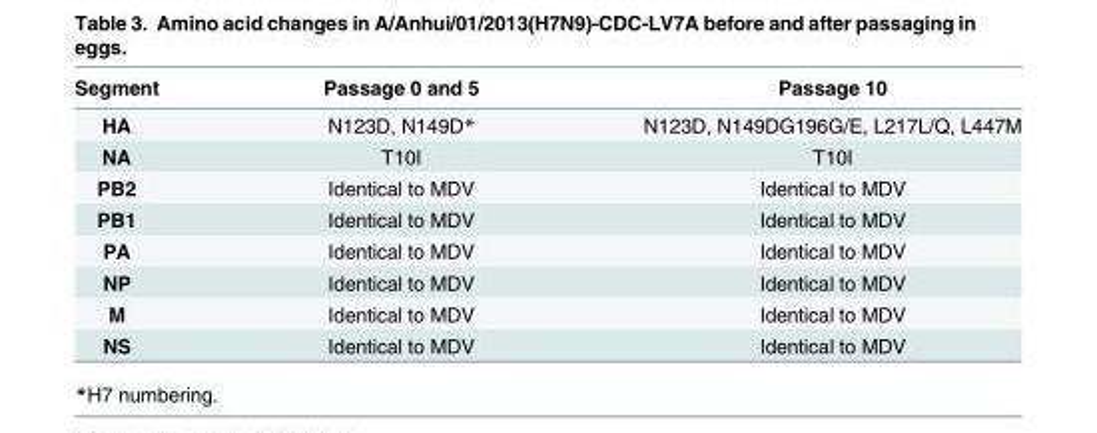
<table><thead><tr><td>Segment</td><td>Passage 0 and 5</td><td>Passage 10</td></tr></thead><tbody><tr><td>HA</td><td>N123D, N149D*</td><td>N123D, N149DG196G/E, L217L/Q, L447M</td></tr><tr><td>NA</td><td>T10I</td><td>T10I</td></tr><tr><td>PB2</td><td>Identical to MDV</td><td>Identical to MDV</td></tr><tr><td>PB1</td><td>Identical to MDV</td><td>Identical to MDV</td></tr><tr><td>PA</td><td>Identical to MDV</td><td>Identical to MDV</td></tr><tr><td>NP</td><td>Identical to MDV</td><td>Identical to MDV</td></tr><tr><td>M</td><td>Identical to MDV</td><td>Identical to MDV</td></tr><tr><td>NS</td><td>Identical to MDV</td><td>Identical to MDV</td></tr></tbody></table>